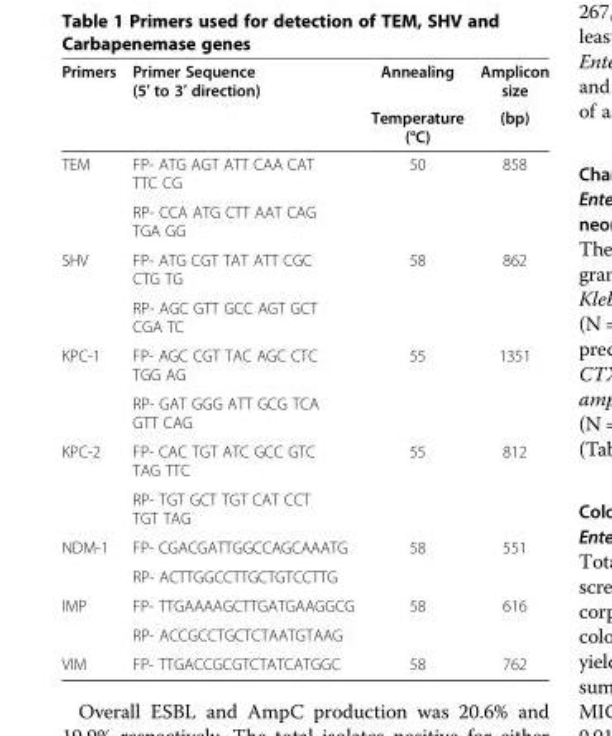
<table><thead><tr><td rowspan="2">Primers</td><td rowspan="2">Primer Sequence (5′ to 3′ direction)</td><td rowspan="2">Annealing Temperature (°C)</td><td rowspan="2">Amplicon size (bp)</td></tr><tr></tr></thead><tbody><tr><td rowspan="2">TEM</td><td>FP- ATG AGT ATT CAA CAT TTC CG</td><td>50</td><td>858</td></tr><tr><td>RP- CCA ATG CTT AAT CAG TGA GG</td><td></td><td></td></tr><tr><td rowspan="2">SHV</td><td>FP- ATG CGT TAT ATT CGC CTG TG</td><td>58</td><td>862</td></tr><tr><td>RP- AGC GTT GCC AGT GCT CGA TC</td><td></td><td></td></tr><tr><td rowspan="2">KPC-1</td><td>FP- AGC CGT TAC AGC CTC TGG AG</td><td>55</td><td>1351</td></tr><tr><td>RP- GAT GGG ATT GCG TCA GTT CAG</td><td></td><td></td></tr><tr><td rowspan="2">KPC-2</td><td>FP- CAC TGT ATC GCC GTC TAG TTC</td><td>55</td><td>812</td></tr><tr><td>RP- TGT GCT TGT CAT CCT TGT TAG</td><td></td><td></td></tr><tr><td rowspan="2">NDM-1</td><td>FP- CGACGATTGGCCAGCAAATG</td><td>58</td><td>551</td></tr><tr><td>RP- ACTTGGCCTTGCTGTCCTTG</td><td></td><td></td></tr><tr><td rowspan="2">IMP</td><td>FP- TTGAAAAGCTTGATGAAGGCG</td><td>58</td><td>616</td></tr><tr><td>RP- ACCGCCTGCTCTAATGTAAG</td><td></td><td></td></tr><tr><td>VIM</td><td>FP- TTGACCGCGTCTATCATGGC</td><td>58</td><td>762</td></tr></tbody></table>